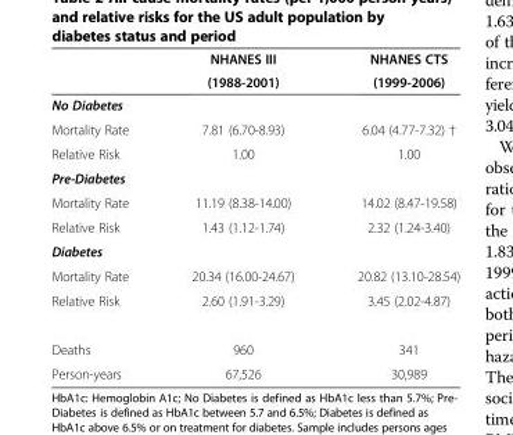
<table><thead><tr><td rowspan="2"></td><td rowspan="2">NHANES III (1988-2001)</td><td rowspan="2">NHANES CTS (1999-2006)</td></tr><tr></tr></thead><tbody><tr><td colspan="3">No Diabetes</td></tr><tr><td>Mortality Rate</td><td>7.81 (6.70-8.93)</td><td>6.04 (4.77-7.32) †</td></tr><tr><td>Relative Risk</td><td>1.00</td><td>1.00</td></tr><tr><td colspan="3">Pre-Diabetes</td></tr><tr><td>Mortality Rate</td><td>11.19 (8.38-14.00)</td><td>14.02 (8.47-19.58)</td></tr><tr><td>Relative Risk</td><td>1.43 (1.12-1.74)</td><td>2.32 (1.24-3.40)</td></tr><tr><td colspan="3">Diabetes</td></tr><tr><td>Mortality Rate</td><td>20.34 (16.00-24.67)</td><td>20.82 (13.10-28.54)</td></tr><tr><td>Relative Risk</td><td>2.60 (1.91-3.29)</td><td>3.45 (2.02-4.87)</td></tr><tr><td>Deaths</td><td>960</td><td>341</td></tr><tr><td>Person-years</td><td>67,526</td><td>30,989</td></tr></tbody></table>